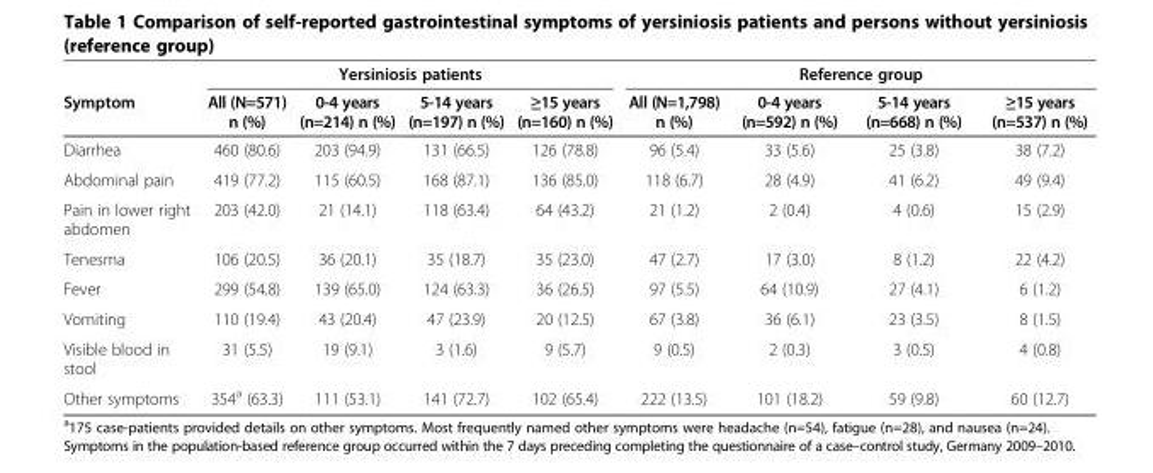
<table><thead><tr><td rowspan="2">Symptom</td><td colspan="4">Yersiniosis patients</td><td colspan="4">Reference group</td></tr><tr><td>All (N=571) n (%)</td><td>0-4 years (n=214) n (%)</td><td>5-14 years (n=197) n (%)</td><td>≥15 years (n=160) n (%)</td><td>All (N=1,798) n (%)</td><td>0-4 years (n=592) n (%)</td><td>5-14 years (n=668) n (%)</td><td>≥15 years (n=537) n (%)</td></tr></thead><tbody><tr><td>Diarrhea</td><td>460 (80.6)</td><td>203 (94.9)</td><td>131 (66.5)</td><td>126 (78.8)</td><td>96 (5.4)</td><td>33 (5.6)</td><td>25 (3.8)</td><td>38 (7.2)</td></tr><tr><td>Abdominal pain</td><td>419 (77.2)</td><td>115 (60.5)</td><td>168 (87.1)</td><td>136 (85.0)</td><td>118 (6.7)</td><td>28 (4.9)</td><td>41 (6.2)</td><td>49 (9.4)</td></tr><tr><td>Pain in lower right abdomen</td><td>203 (42.0)</td><td>21 (14.1)</td><td>118 (63.4)</td><td>64 (43.2)</td><td>21 (1.2)</td><td>2 (0.4)</td><td>4 (0.6)</td><td>15 (2.9)</td></tr><tr><td>Tenesma</td><td>106 (20.5)</td><td>36 (20.1)</td><td>35 (18.7)</td><td>35 (23.0)</td><td>47 (2.7)</td><td>17 (3.0)</td><td>8 (1.2)</td><td>22 (4.2)</td></tr><tr><td>Fever</td><td>299 (54.8)</td><td>139 (65.0)</td><td>124 (63.3)</td><td>36 (26.5)</td><td>97 (5.5)</td><td>64 (10.9)</td><td>27 (4.1)</td><td>6 (1.2)</td></tr><tr><td>Vomiting</td><td>110 (19.4)</td><td>43 (20.4)</td><td>47 (23.9)</td><td>20 (12.5)</td><td>67 (3.8)</td><td>36 (6.1)</td><td>23 (3.5)</td><td>8 (1.5)</td></tr><tr><td>Visible blood in stool</td><td>31 (5.5)</td><td>19 (9.1)</td><td>3 (1.6)</td><td>9 (5.7)</td><td>9 (0.5)</td><td>2 (0.3)</td><td>3 (0.5)</td><td>4 (0.8)</td></tr><tr><td>Other symptoms</td><td>354<sup>a</sup> (63.3)</td><td>111 (53.1)</td><td>141 (72.7)</td><td>102 (65.4)</td><td>222 (13.5)</td><td>101 (18.2)</td><td>59 (9.8)</td><td>60 (12.7)</td></tr></tbody></table>